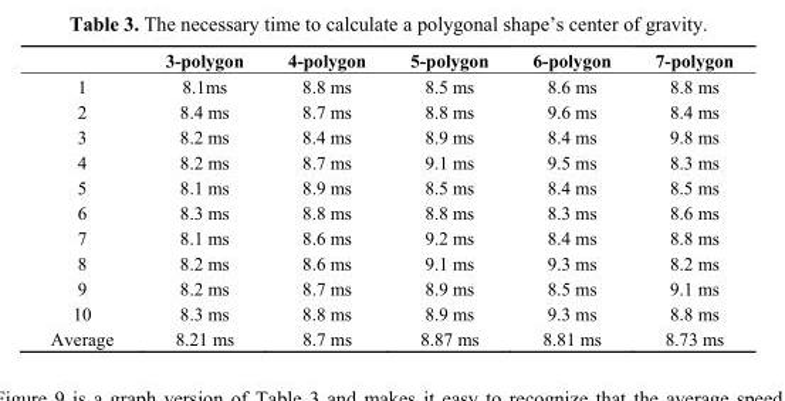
<table><thead><tr><td></td><td>3-polygon</td><td>4-polygon</td><td>5-polygon</td><td>6-polygon</td><td>7-polygon</td></tr></thead><tbody><tr><td>1</td><td>8.1ms</td><td>8.8 ms</td><td>8.5 ms</td><td>8.6 ms</td><td>8.8 ms</td></tr><tr><td>2</td><td>8.4 ms</td><td>8.7 ms</td><td>8.8 ms</td><td>9.6 ms</td><td>8.4 ms</td></tr><tr><td>3</td><td>8.2 ms</td><td>8.4 ms</td><td>8.9 ms</td><td>8.4 ms</td><td>9.8 ms</td></tr><tr><td>4</td><td>8.2 ms</td><td>8.7 ms</td><td>9.1 ms</td><td>9.5 ms</td><td>8.3 ms</td></tr><tr><td>5</td><td>8.1 ms</td><td>8.9 ms</td><td>8.5 ms</td><td>8.4 ms</td><td>8.5 ms</td></tr><tr><td>6</td><td>8.3 ms</td><td>8.8 ms</td><td>8.8 ms</td><td>8.3 ms</td><td>8.6 ms</td></tr><tr><td>7</td><td>8.1 ms</td><td>8.6 ms</td><td>9.2 ms</td><td>8.4 ms</td><td>8.8 ms</td></tr><tr><td>8</td><td>8.2 ms</td><td>8.6 ms</td><td>9.1 ms</td><td>9.3 ms</td><td>8.2 ms</td></tr><tr><td>9</td><td>8.2 ms</td><td>8.7 ms</td><td>8.9 ms</td><td>8.5 ms</td><td>9.1 ms</td></tr><tr><td>10</td><td>8.3 ms</td><td>8.8 ms</td><td>8.9 ms</td><td>9.3 ms</td><td>8.8 ms</td></tr><tr><td>Average</td><td>8.21 ms</td><td>8.7 ms</td><td>8.87 ms</td><td>8.81 ms</td><td>8.73 ms</td></tr></tbody></table>